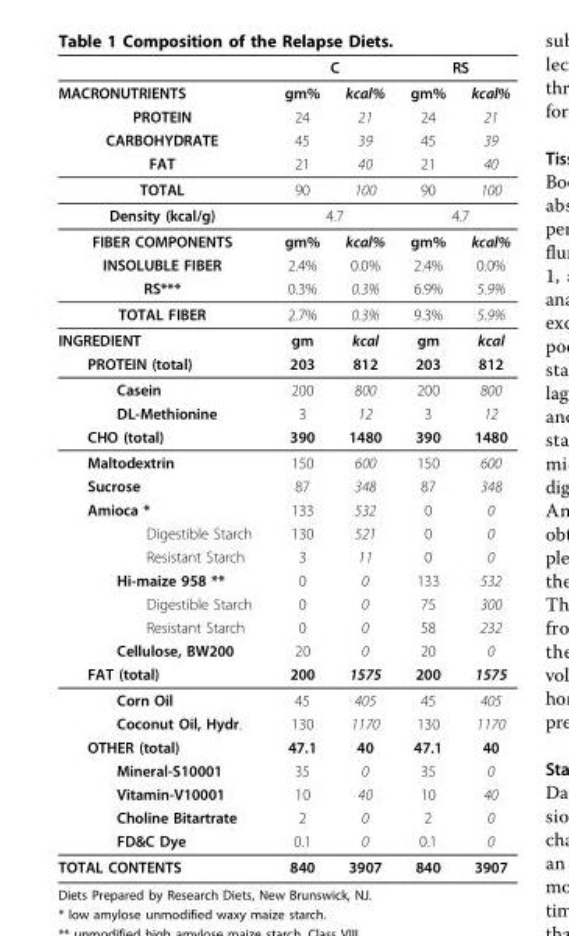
<table><thead><tr><td rowspan="2">MACRONUTRIENTS</td><td colspan="2">C</td><td colspan="2">RS</td></tr><tr><td>gm%</td><td>kcal%</td><td>gm%</td><td>kcal%</td></tr></thead><tbody><tr><td>PROTEIN</td><td>24</td><td>21</td><td>24</td><td>21</td></tr><tr><td>CARBOHYDRATE</td><td>45</td><td>39</td><td>45</td><td>39</td></tr><tr><td>FAT</td><td>21</td><td>40</td><td>21</td><td>40</td></tr><tr><td>TOTAL</td><td>90</td><td>100</td><td>90</td><td>100</td></tr><tr><td>Density (kcal/g)</td><td colspan="2">4.7</td><td colspan="2">4.7</td></tr><tr><td>FIBER COMPONENTS</td><td>gm%</td><td>kcal%</td><td>gm%</td><td>kcal%</td></tr><tr><td>INSOLUBLE FIBER</td><td>2.4%</td><td>0.0%</td><td>2.4%</td><td>0.0%</td></tr><tr><td>RS***</td><td>0.3%</td><td>0.3%</td><td>6.9%</td><td>5.9%</td></tr><tr><td>TOTAL FIBER</td><td>2.7%</td><td>0.3%</td><td>9.3%</td><td>5.9%</td></tr><tr><td>INGREDIENT</td><td>gm</td><td>kcal</td><td>gm</td><td>kcal</td></tr><tr><td>PROTEIN (total)</td><td>203</td><td>812</td><td>203</td><td>812</td></tr><tr><td>Casein</td><td>200</td><td>800</td><td>200</td><td>800</td></tr><tr><td>DL-Methionine</td><td>3</td><td>12</td><td>3</td><td>12</td></tr><tr><td>CHO (total)</td><td>390</td><td>1480</td><td>390</td><td>1480</td></tr><tr><td>Maltodextrin</td><td>150</td><td>600</td><td>150</td><td>600</td></tr><tr><td>Sucrose</td><td>87</td><td>348</td><td>87</td><td>348</td></tr><tr><td>Amioca *</td><td>133</td><td>532</td><td>0</td><td>0</td></tr><tr><td>Digestible Starch</td><td>130</td><td>521</td><td>0</td><td>0</td></tr><tr><td>Resistant Starch</td><td>3</td><td>11</td><td>0</td><td>0</td></tr><tr><td>Hi-maize 958 **</td><td>0</td><td>0</td><td>133</td><td>532</td></tr><tr><td>Digestible Starch</td><td>0</td><td>0</td><td>75</td><td>300</td></tr><tr><td>Resistant Starch</td><td>0</td><td>0</td><td>58</td><td>232</td></tr><tr><td>Cellulose, BW200</td><td>20</td><td>0</td><td>20</td><td>0</td></tr><tr><td>FAT (total)</td><td>200</td><td>1575</td><td>200</td><td>1575</td></tr><tr><td>Corn Oil</td><td>45</td><td>405</td><td>45</td><td>405</td></tr><tr><td>Coconut Oil, Hydr.</td><td>130</td><td>1170</td><td>130</td><td>1170</td></tr><tr><td>OTHER (total)</td><td>47.1</td><td>40</td><td>47.1</td><td>40</td></tr><tr><td>Mineral-S10001</td><td>35</td><td>0</td><td>35</td><td>0</td></tr><tr><td>Vitamin-V10001</td><td>10</td><td>40</td><td>10</td><td>40</td></tr><tr><td>Choline Bitartrate</td><td>2</td><td>0</td><td>2</td><td>0</td></tr><tr><td>FD&amp;C Dye</td><td>0.1</td><td>0</td><td>0.1</td><td>0</td></tr><tr><td>TOTAL CONTENTS</td><td>840</td><td>3907</td><td>840</td><td>3907</td></tr></tbody></table>